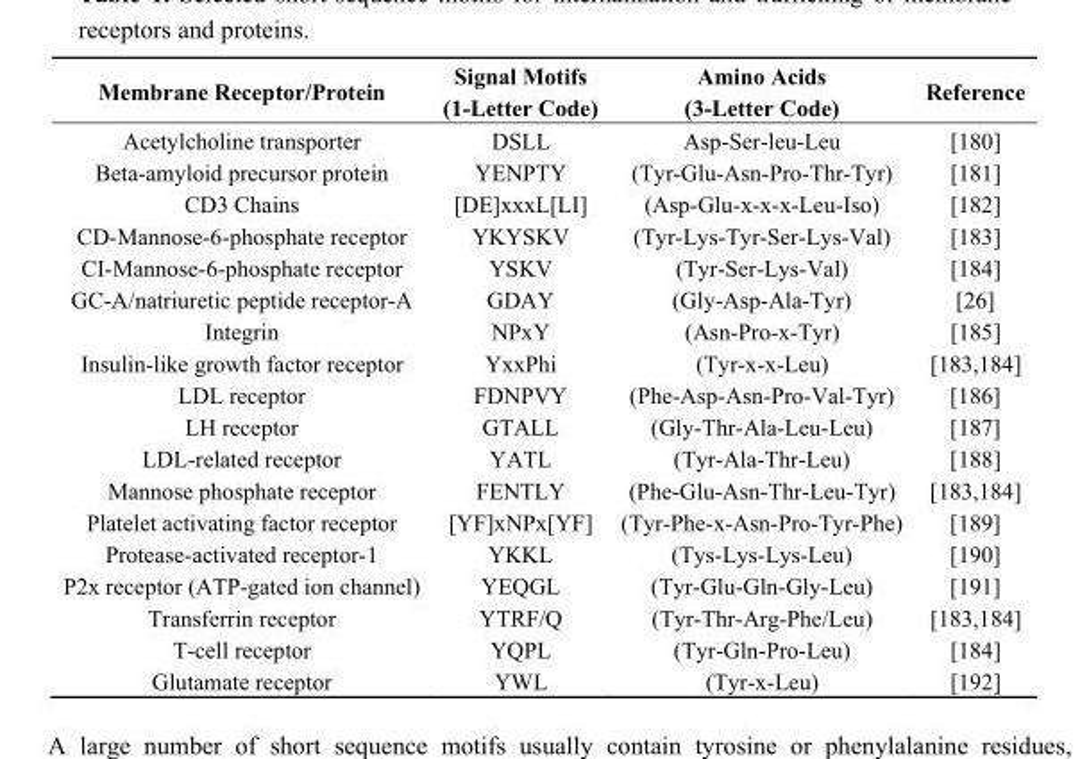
<table><thead><tr><td>Membrane Receptor/Protein</td><td>Signal Motifs (1-Letter Code)</td><td>Amino Acids (3-Letter Code)</td><td>Reference</td></tr></thead><tbody><tr><td>Acetylcholine transporter</td><td>DSLL</td><td>Asp-Ser-leu-Leu</td><td>[180]</td></tr><tr><td>Beta-amyloid precursor protein</td><td>YENPTY</td><td>(Tyr-Glu-Asn-Pro-Thr-Tyr)</td><td>[181]</td></tr><tr><td>CD3 Chains</td><td>[DE]xxxL[LI]</td><td>(Asp-Glu-x-x-x-Leu-Iso)</td><td>[182]</td></tr><tr><td>CD-Mannose-6-phosphate receptor</td><td>YKYSKV</td><td>(Tyr-Lys-Tyr-Ser-Lys-Val)</td><td>[183]</td></tr><tr><td>CI-Mannose-6-phosphate receptor</td><td>YSKV</td><td>(Tyr-Ser-Lys-Val)</td><td>[184]</td></tr><tr><td>GC-A/natriuretic peptide receptor-A</td><td>GDAY</td><td>(Gly-Asp-Ala-Tyr)</td><td>[26]</td></tr><tr><td>Integrin</td><td>NPxY</td><td>(Asn-Pro-x-Tyr)</td><td>[185]</td></tr><tr><td>Insulin-like growth factor receptor</td><td>YxxPhi</td><td>(Tyr-x-x-Leu)</td><td>[183,184]</td></tr><tr><td>LDL receptor</td><td>FDNPVY</td><td>(Phe-Asp-Asn-Pro-Val-Tyr)</td><td>[186]</td></tr><tr><td>LH receptor</td><td>GTALL</td><td>(Gly-Thr-Ala-Leu-Leu)</td><td>[187]</td></tr><tr><td>LDL-related receptor</td><td>YATL</td><td>(Tyr-Ala-Thr-Leu)</td><td>[188]</td></tr><tr><td>Mannose phosphate receptor</td><td>FENTLY</td><td>(Phe-Glu-Asn-Thr-Leu-Tyr)</td><td>[183,184]</td></tr><tr><td>Platelet activating factor receptor</td><td>[YF]xNPx[YF]</td><td>(Tyr-Phe-x-Asn-Pro-Tyr-Phe)</td><td>[189]</td></tr><tr><td>Protease-activated receptor-1</td><td>YKKL</td><td>(Tys-Lys-Lys-Leu)</td><td>[190]</td></tr><tr><td>P2x receptor (ATP-gated ion channel)</td><td>YEQGL</td><td>(Tyr-Glu-Gln-Gly-Leu)</td><td>[191]</td></tr><tr><td>Transferrin receptor</td><td>YTRF/Q</td><td>(Tyr-Thr-Arg-Phe/Leu)</td><td>[183,184]</td></tr><tr><td>T-cell receptor</td><td>YQPL</td><td>(Tyr-Gln-Pro-Leu)</td><td>[184]</td></tr><tr><td>Glutamate receptor</td><td>YWL</td><td>(Tyr-x-Leu)</td><td>[192]</td></tr></tbody></table>